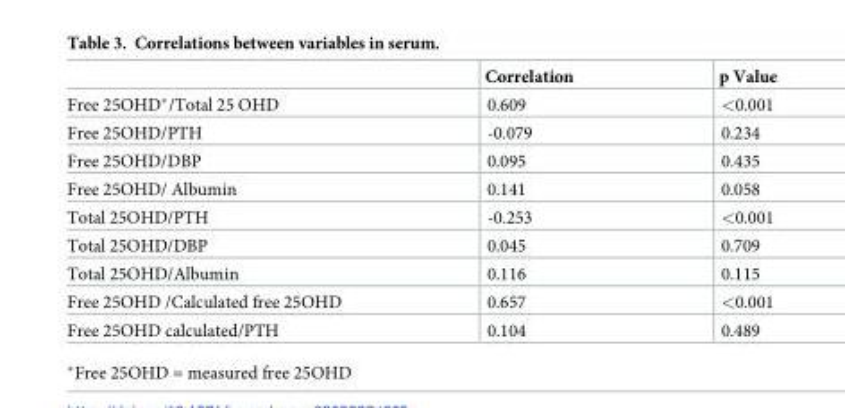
<table><thead><tr><td></td><td>Correlation</td><td>p Value</td></tr></thead><tbody><tr><td>Free 25OHD*/Total 25 OHD</td><td>0.609</td><td>&lt;0.001</td></tr><tr><td>Free 25OHD/PTH</td><td>-0.079</td><td>0.234</td></tr><tr><td>Free 25OHD/DBP</td><td>0.095</td><td>0.435</td></tr><tr><td>Free 25OHD/ Albumin</td><td>0.141</td><td>0.058</td></tr><tr><td>Total 25OHD/PTH</td><td>-0.253</td><td>&lt;0.001</td></tr><tr><td>Total 25OHD/DBP</td><td>0.045</td><td>0.709</td></tr><tr><td>Total 25OHD/Albumin</td><td>0.116</td><td>0.115</td></tr><tr><td>Free 25OHD /Calculated free 25OHD</td><td>0.657</td><td>&lt;0.001</td></tr><tr><td>Free 25OHD calculated/PTH</td><td>0.104</td><td>0.489</td></tr></tbody></table>